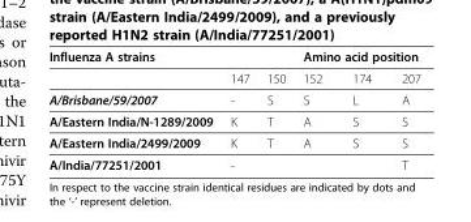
<table><thead><tr><td colspan="3">Influenza A strains</td><td colspan="3">Amino acid position</td></tr><tr><td></td><td>147</td><td>150</td><td>152</td><td>174</td><td>207</td></tr></thead><tbody><tr><td>A/Brisbane/59/2007</td><td>-</td><td>S</td><td>S</td><td>L</td><td>A</td></tr><tr><td>A/Eastern India/N-1289/2009</td><td>K</td><td>T</td><td>A</td><td>S</td><td>S</td></tr><tr><td>A/Eastern India/2499/2009</td><td>K</td><td>T</td><td>A</td><td>S</td><td>S</td></tr><tr><td>A/India/77251/2001</td><td>-</td><td></td><td></td><td></td><td>T</td></tr></tbody></table>